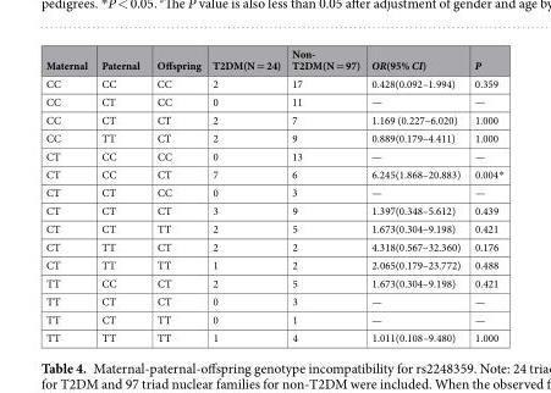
<table><thead><tr><td>Maternal</td><td>Paternal</td><td>Offspring</td><td>T2DM(N = 24)</td><td>Non- T2DM(N = 97)</td><td>OR(95% CI)</td><td>P</td></tr></thead><tbody><tr><td>CC</td><td>CC</td><td>CC</td><td>2</td><td>17</td><td>0.428(0.092–1.994)</td><td>0.359</td></tr><tr><td>CC</td><td>CT</td><td>CC</td><td>0</td><td>11</td><td>—</td><td>—</td></tr><tr><td>CC</td><td>CT</td><td>CT</td><td>2</td><td>7</td><td>1.169 (0.227–6.020)</td><td>1.000</td></tr><tr><td>CC</td><td>TT</td><td>CT</td><td>2</td><td>9</td><td>0.889(0.179–4.411)</td><td>1.000</td></tr><tr><td>CT</td><td>CC</td><td>CC</td><td>0</td><td>13</td><td>—</td><td>—</td></tr><tr><td>CT</td><td>CC</td><td>CT</td><td>7</td><td>6</td><td>6.245(1.868–20.883)</td><td>0.004*</td></tr><tr><td>CT</td><td>CT</td><td>CC</td><td>0</td><td>3</td><td>—</td><td>—</td></tr><tr><td>CT</td><td>CT</td><td>CT</td><td>3</td><td>9</td><td>1.397(0.348–5.612)</td><td>0.439</td></tr><tr><td>CT</td><td>CT</td><td>TT</td><td>2</td><td>5</td><td>1.673(0.304–9.198)</td><td>0.421</td></tr><tr><td>CT</td><td>TT</td><td>CT</td><td>2</td><td>2</td><td>4.318(0.567–32.360)</td><td>0.176</td></tr><tr><td>CT</td><td>TT</td><td>TT</td><td>1</td><td>2</td><td>2.065(0.179–23.772)</td><td>0.488</td></tr><tr><td>TT</td><td>CC</td><td>CT</td><td>2</td><td>5</td><td>1.673(0.304–9.198)</td><td>0.421</td></tr><tr><td>TT</td><td>CT</td><td>CT</td><td>0</td><td>3</td><td>—</td><td>—</td></tr><tr><td>TT</td><td>CT</td><td>TT</td><td>0</td><td>1</td><td>—</td><td>—</td></tr><tr><td>TT</td><td>TT</td><td>TT</td><td>1</td><td>4</td><td>1.011(0.108–9.480)</td><td>1.000</td></tr></tbody></table>